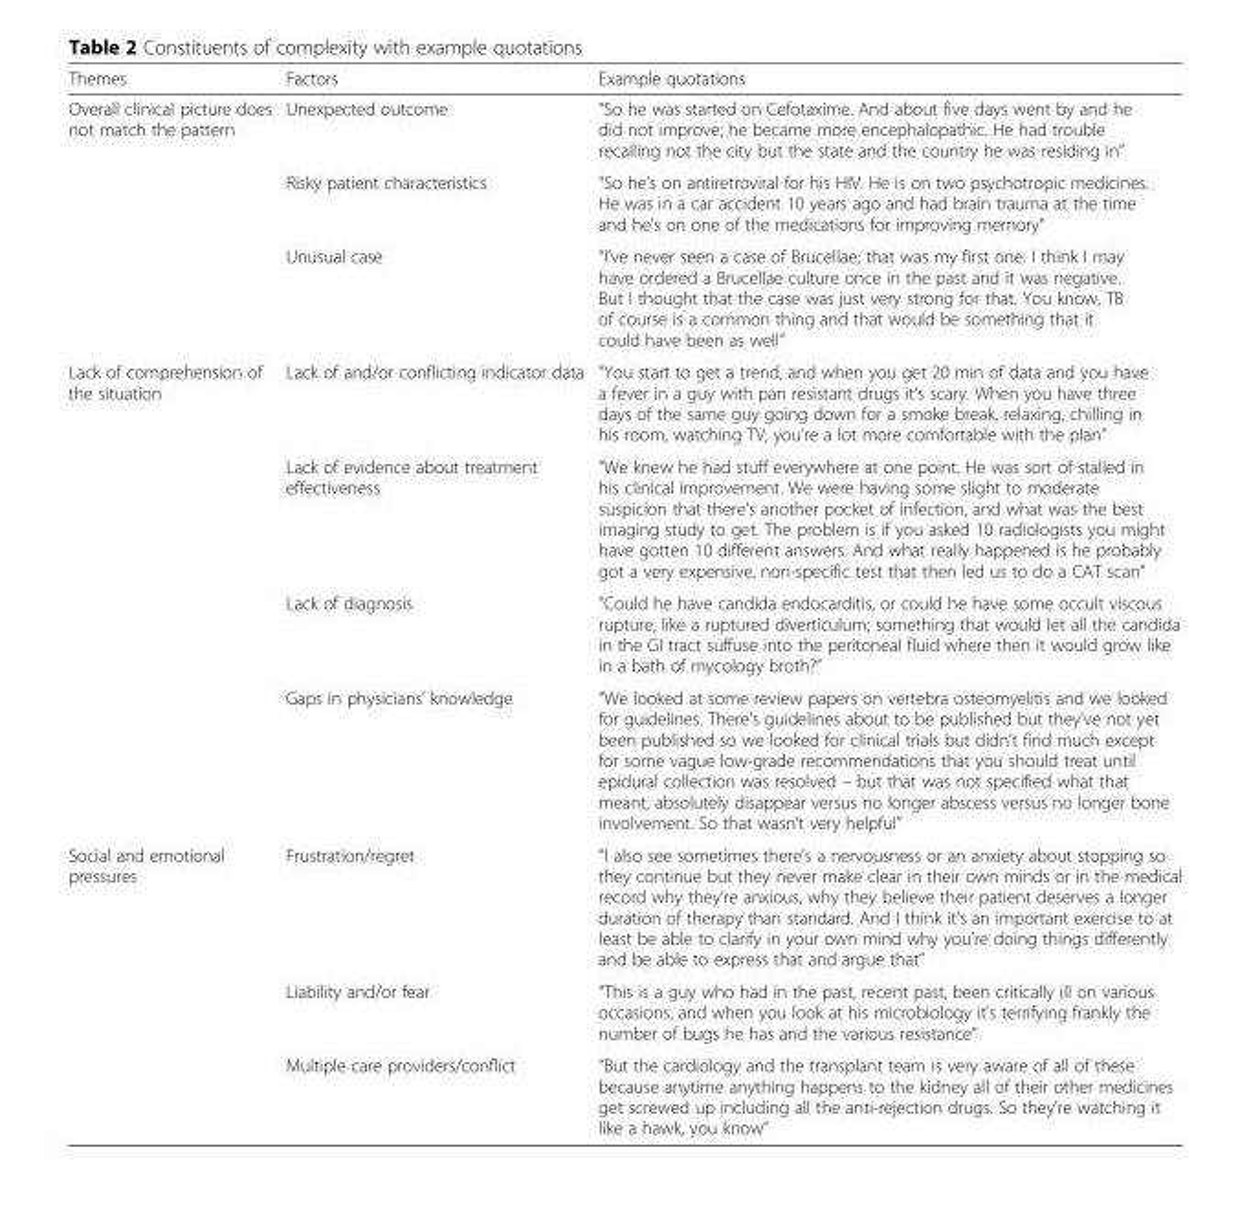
<table><thead><tr><td>Themes</td><td>Factors</td><td>Example quotations</td></tr></thead><tbody><tr><td rowspan="3">Overall clinical picture does not match the pattern</td><td>Unexpected outcome</td><td>“So he was started on Cefotaxime. And about five days went by and he did not improve; he became more encephalopathic. He had trouble recalling not the city but the state and the country he was residing in”</td></tr><tr><td>Risky patient characteristics</td><td>“So he’s on antiretroviral for his HIV. He is on two psychotropic medicines. He was in a car accident 10 years ago and had brain trauma at the time and he’s on one of the medications for improving memory”</td></tr><tr><td>Unusual case</td><td>“I’ve never seen a case of Brucellae; that was my first one. I think I may have ordered a Brucellae culture once in the past and it was negative. But I thought that the case was just very strong for that. You know, TB of course is a common thing and that would be something that it could have been as well”</td></tr><tr><td rowspan="4">Lack of comprehension of the situation</td><td>Lack of and/or conflicting indicator data</td><td>“You start to get a trend, and when you get 20 min of data and you have a fever in a guy with pan resistant drugs it’s scary. When you have three days of the same guy going down for a smoke break, relaxing, chilling in his room, watching TV, you’re a lot more comfortable with the plan”</td></tr><tr><td>Lack of evidence about treatment effectiveness</td><td>“We knew he had stuff everywhere at one point. He was sort of stalled in his clinical improvement. We were having some slight to moderate suspicion that there’s another pocket of infection, and what was the best imaging study to get. The problem is if you asked 10 radiologists you might have gotten 10 different answers. And what really happened is he probably got a very expensive, non-specific test that then led us to do a CAT scan”</td></tr><tr><td>Lack of diagnosis</td><td>“Could he have candida endocarditis, or could he have some occult viscous rupture, like a ruptured diverticulum; something that would let all the candida in the GI tract suffuse into the peritoneal fluid where then it would grow like in a bath of mycology broth?”</td></tr><tr><td>Gaps in physicians’ knowledge</td><td>“We looked at some review papers on vertebra osteomyelitis and we looked for guidelines. There’s guidelines about to be published but they’ve not yet been published so we looked for clinical trials but didn’t find much except for some vague low-grade recommendations that you should treat until epidural collection was resolved – but that was not specified what that meant, absolutely disappear versus no longer abscess versus no longer bone involvement. So that wasn’t very helpful”</td></tr><tr><td rowspan="3">Social and emotional pressures</td><td>Frustration/regret</td><td>“I also see sometimes there’s a nervousness or an anxiety about stopping so they continue but they never make clear in their own minds or in the medical record why they’re anxious, why they believe their patient deserves a longer duration of therapy than standard. And I think it’s an important exercise to at least be able to clarify in your own mind why you’re doing things differently and be able to express that and argue that”</td></tr><tr><td>Liability and/or fear</td><td>“This is a guy who had in the past, recent past, been critically ill on various occasions, and when you look at his microbiology it’s terrifying frankly the number of bugs he has and the various resistance”</td></tr><tr><td>Multiple care providers/conflict</td><td>“But the cardiology and the transplant team is very aware of all of these because anytime anything happens to the kidney all of their other medicines get screwed up including all the anti-rejection drugs. So they’re watching it like a hawk, you know”</td></tr></tbody></table>